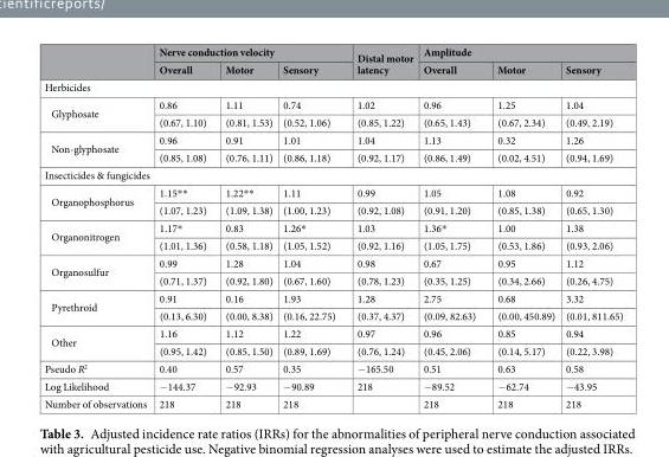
<table><thead><tr><td rowspan="2"></td><td colspan="3">Nerve conduction velocity</td><td rowspan="2">Distal motor latency</td><td colspan="3">Amplitude</td></tr><tr><td>Overall</td><td>Motor</td><td>Sensory</td><td>Overall</td><td>Motor</td><td>Sensory</td></tr></thead><tbody><tr><td colspan="8">Herbicides</td></tr><tr><td rowspan="2">Glyphosate</td><td>0.86</td><td>1.11</td><td>0.74</td><td>1.02</td><td>0.96</td><td>1.25</td><td>1.04</td></tr><tr><td>(0.67, 1.10)</td><td>(0.81, 1.53)</td><td>(0.52, 1.06)</td><td>(0.85, 1.22)</td><td>(0.65, 1.43)</td><td>(0.67, 2.34)</td><td>(0.49, 2.19)</td></tr><tr><td rowspan="2">Non-glyphosate</td><td>0.96</td><td>0.91</td><td>1.01</td><td>1.04</td><td>1.13</td><td>0.32</td><td>1.26</td></tr><tr><td>(0.85, 1.08)</td><td>(0.76, 1.11)</td><td>(0.86, 1.18)</td><td>(0.92, 1.17)</td><td>(0.86, 1.49)</td><td>(0.02, 4.51)</td><td>(0.94, 1.69)</td></tr><tr><td colspan="8">Insecticides &amp; fungicides</td></tr><tr><td rowspan="2">Organophosphorus</td><td>1.15**</td><td>1.22**</td><td>1.11</td><td>0.99</td><td>1.05</td><td>1.08</td><td>0.92</td></tr><tr><td>(1.07, 1.23)</td><td>(1.09, 1.38)</td><td>(1.00, 1.23)</td><td>(0.92, 1.08)</td><td>(0.91, 1.20)</td><td>(0.85, 1.38)</td><td>(0.65, 1.30)</td></tr><tr><td rowspan="2">Organonitrogen</td><td>1.17*</td><td>0.83</td><td>1.26*</td><td>1.03</td><td>1.36*</td><td>1.00</td><td>1.38</td></tr><tr><td>(1.01, 1.36)</td><td>(0.58, 1.18)</td><td>(1.05, 1.52)</td><td>(0.92, 1.16)</td><td>(1.05, 1.75)</td><td>(0.53, 1.86)</td><td>(0.93, 2.06)</td></tr><tr><td rowspan="2">Organosulfur</td><td>0.99</td><td>1.28</td><td>1.04</td><td>0.98</td><td>0.67</td><td>0.95</td><td>1.12</td></tr><tr><td>(0.71, 1.37)</td><td>(0.92, 1.80)</td><td>(0.67, 1.60)</td><td>(0.78, 1.23)</td><td>(0.35, 1.25)</td><td>(0.34, 2.66)</td><td>(0.26, 4.75)</td></tr><tr><td rowspan="2">Pyrethroid</td><td>0.91</td><td>0.16</td><td>1.93</td><td>1.28</td><td>2.75</td><td>0.68</td><td>3.32</td></tr><tr><td>(0.13, 6.30)</td><td>(0.00, 8.38)</td><td>(0.16, 22.75)</td><td>(0.37, 4.37)</td><td>(0.09, 82.63)</td><td>(0.00, 450.89)</td><td>(0.01, 811.65)</td></tr><tr><td rowspan="2">Other</td><td>1.16</td><td>1.12</td><td>1.22</td><td>0.97</td><td>0.96</td><td>0.85</td><td>0.94</td></tr><tr><td>(0.95, 1.42)</td><td>(0.85, 1.50)</td><td>(0.89, 1.69)</td><td>(0.76, 1.24)</td><td>(0.45, 2.06)</td><td>(0.14, 5.17)</td><td>(0.22, 3.98)</td></tr><tr><td>Pseudo R<sup>2</sup></td><td>0.40</td><td>0.57</td><td>0.35</td><td>−165.50</td><td>0.51</td><td>0.63</td><td>0.58</td></tr><tr><td>Log Likelihood</td><td>−144.37</td><td>−92.93</td><td>−90.89</td><td>218</td><td>−89.52</td><td>−62.74</td><td>−43.95</td></tr><tr><td>Number of observations</td><td>218</td><td>218</td><td>218</td><td></td><td>218</td><td>218</td><td>218</td></tr></tbody></table>